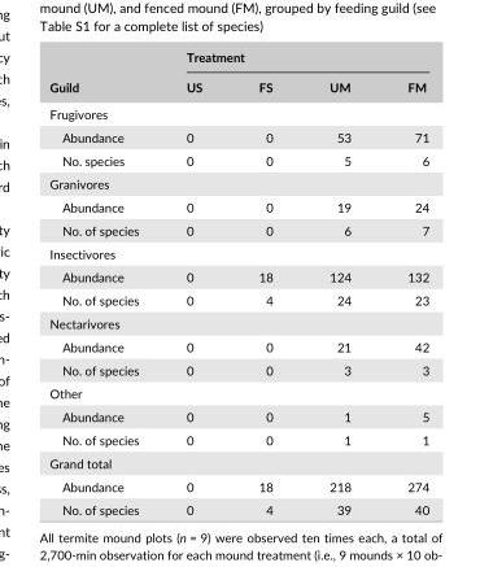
<table><thead><tr><td rowspan="2">Guild</td><td colspan="4">Treatment</td></tr><tr><td>US</td><td>FS</td><td>UM</td><td>FM</td></tr></thead><tbody><tr><td colspan="5">Frugivores</td></tr><tr><td>Abundance</td><td>0</td><td>0</td><td>53</td><td>71</td></tr><tr><td>No. species</td><td>0</td><td>0</td><td>5</td><td>6</td></tr><tr><td colspan="5">Granivores</td></tr><tr><td>Abundance</td><td>0</td><td>0</td><td>19</td><td>24</td></tr><tr><td>No. of species</td><td>0</td><td>0</td><td>6</td><td>7</td></tr><tr><td colspan="5">Insectivores</td></tr><tr><td>Abundance</td><td>0</td><td>18</td><td>124</td><td>132</td></tr><tr><td>No. of species</td><td>0</td><td>4</td><td>24</td><td>23</td></tr><tr><td colspan="5">Nectarivores</td></tr><tr><td>Abundance</td><td>0</td><td>0</td><td>21</td><td>42</td></tr><tr><td>No. of species</td><td>0</td><td>0</td><td>3</td><td>3</td></tr><tr><td colspan="5">Other</td></tr><tr><td>Abundance</td><td>0</td><td>0</td><td>1</td><td>5</td></tr><tr><td>No. of species</td><td>0</td><td>0</td><td>1</td><td>1</td></tr><tr><td colspan="5">Grand total</td></tr><tr><td>Abundance</td><td>0</td><td>18</td><td>218</td><td>274</td></tr><tr><td>No. of species</td><td>0</td><td>4</td><td>39</td><td>40</td></tr></tbody></table>